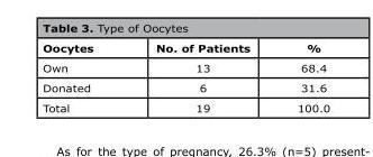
<table><thead><tr><td>Oocytes</td><td>No. of Patients</td><td>%</td></tr></thead><tbody><tr><td>Own</td><td>13</td><td>68.4</td></tr><tr><td>Donated</td><td>6</td><td>31.6</td></tr><tr><td>Total</td><td>19</td><td>100.0</td></tr></tbody></table>